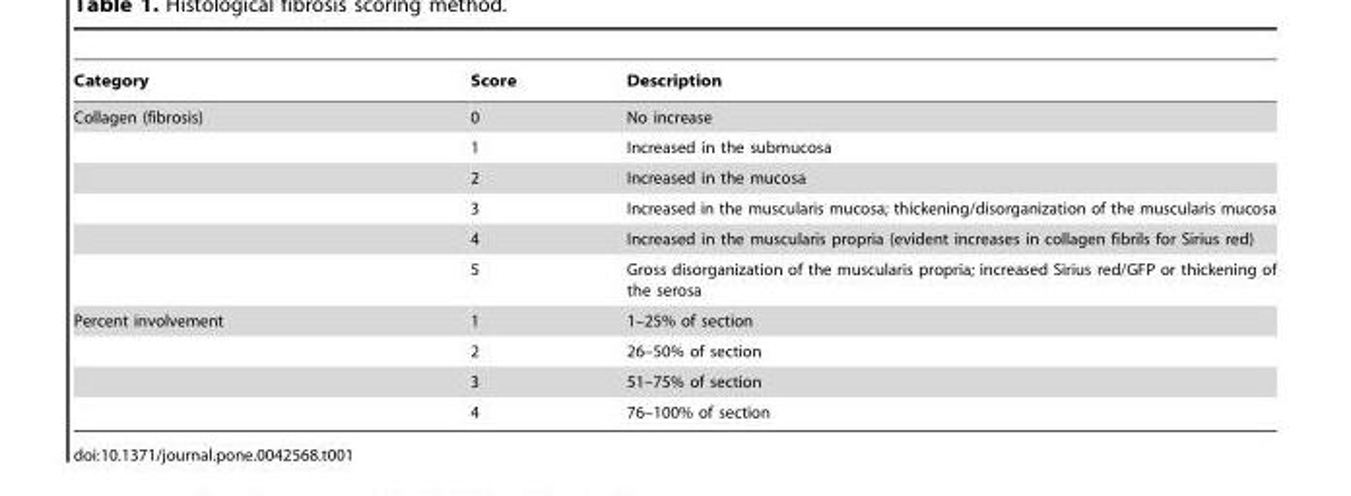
<table><thead><tr><td>Category</td><td>Score</td><td>Description</td></tr></thead><tbody><tr><td rowspan="6">Collagen (fibrosis)</td><td>0</td><td>No increase</td></tr><tr><td>1</td><td>Increased in the submucosa</td></tr><tr><td>2</td><td>Increased in the mucosa</td></tr><tr><td>3</td><td>Increased in the muscularis mucosa; thickening/disorganization of the muscularis mucosa</td></tr><tr><td>4</td><td>Increased in the muscularis propria (evident increases in collagen fibrils for Sirius red)</td></tr><tr><td>5</td><td>Gross disorganization of the muscularis propria; increased Sirius red/GFP or thickening of the serosa</td></tr><tr><td rowspan="4">Percent involvement</td><td>1</td><td>1–25% of section</td></tr><tr><td>2</td><td>26–50% of section</td></tr><tr><td>3</td><td>51–75% of section</td></tr><tr><td>4</td><td>76–100% of section</td></tr></tbody></table>